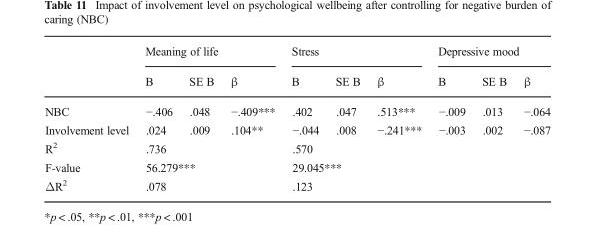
<table><thead><tr><td rowspan="2"></td><td colspan="3">Meaning of life</td><td colspan="3">Stress</td><td colspan="3">Depressive mood</td></tr><tr><td>B</td><td>SE B</td><td>β</td><td>B</td><td>SE B</td><td>β</td><td>B</td><td>SE B</td><td>β</td></tr></thead><tbody><tr><td>NBC</td><td>−.406</td><td>.048</td><td>−.409***</td><td>.402</td><td>.047</td><td>.513***</td><td>−.009</td><td>.013</td><td>−.064</td></tr><tr><td>Involvement level</td><td>.024</td><td>.009</td><td>.104**</td><td>−.044</td><td>.008</td><td>−.241***</td><td>−.003</td><td>.002</td><td>−.087</td></tr><tr><td>R<sup>2</sup></td><td colspan="3">.736</td><td colspan="3">.570</td><td colspan="3"></td></tr><tr><td>F-value</td><td colspan="3">56.279***</td><td colspan="3">29.045***</td><td colspan="3"></td></tr><tr><td>ΔR<sup>2</sup></td><td colspan="3">.078</td><td colspan="3">.123</td><td colspan="3"></td></tr></tbody></table>